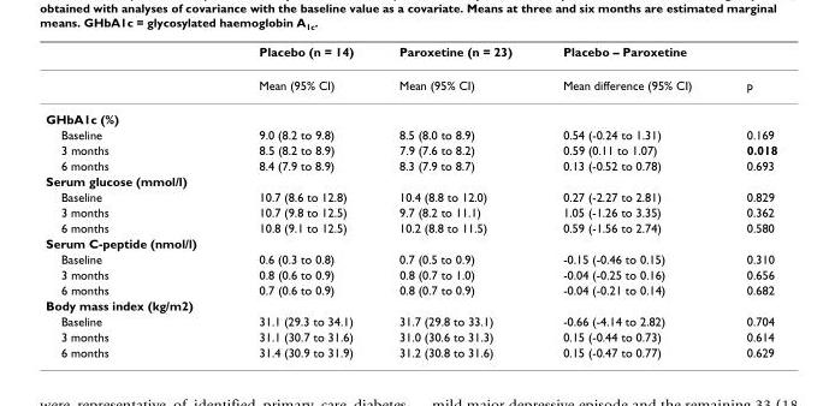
<table><thead><tr><td></td><td>Placebo (n = 14)</td><td>Paroxetine (n = 23)</td><td>Placebo – Paroxetine</td><td></td></tr></thead><tbody><tr><td></td><td>Mean (95% CI)</td><td>Mean (95% CI)</td><td>Mean difference (95% CI)</td><td>p</td></tr><tr><td colspan="5">GHbA1c (%)</td></tr><tr><td>Baseline</td><td>9.0 (8.2 to 9.8)</td><td>8.5 (8.0 to 8.9)</td><td>0.54 (-0.24 to 1.31)</td><td>0.169</td></tr><tr><td>3 months</td><td>8.5 (8.2 to 8.9)</td><td>7.9 (7.6 to 8.2)</td><td>0.59 (0.11 to 1.07)</td><td>0.018</td></tr><tr><td>6 months</td><td>8.4 (7.9 to 8.9)</td><td>8.3 (7.9 to 8.7)</td><td>0.13 (-0.52 to 0.78)</td><td>0.693</td></tr><tr><td colspan="5">Serum glucose (mmol/l)</td></tr><tr><td>Baseline</td><td>10.7 (8.6 to 12.8)</td><td>10.4 (8.8 to 12.0)</td><td>0.27 (-2.27 to 2.81)</td><td>0.829</td></tr><tr><td>3 months</td><td>10.7 (9.8 to 12.5)</td><td>9.7 (8.2 to 11.1)</td><td>1.05 (-1.26 to 3.35)</td><td>0.362</td></tr><tr><td>6 months</td><td>10.8 (9.1 to 12.5)</td><td>10.2 (8.8 to 11.5)</td><td>0.59 (-1.56 to 2.74)</td><td>0.580</td></tr><tr><td colspan="5">Serum C-peptide (nmol/l)</td></tr><tr><td>Baseline</td><td>0.6 (0.3 to 0.8)</td><td>0.7 (0.5 to 0.9)</td><td>-0.15 (-0.46 to 0.15)</td><td>0.310</td></tr><tr><td>3 months</td><td>0.8 (0.6 to 0.9)</td><td>0.8 (0.7 to 1.0)</td><td>-0.04 (-0.25 to 0.16)</td><td>0.656</td></tr><tr><td>6 months</td><td>0.7 (0.6 to 0.9)</td><td>0.8 (0.7 to 0.9)</td><td>-0.04 (-0.21 to 0.14)</td><td>0.682</td></tr><tr><td colspan="5">Body mass index (kg/m2)</td></tr><tr><td>Baseline</td><td>31.1 (29.3 to 34.1)</td><td>31.7 (29.8 to 33.1)</td><td>-0.66 (-4.14 to 2.82)</td><td>0.704</td></tr><tr><td>3 months</td><td>31.1 (30.7 to 31.6)</td><td>31.0 (30.6 to 31.3)</td><td>0.15 (-0.44 to 0.73)</td><td>0.614</td></tr><tr><td>6 months</td><td>31.4 (30.9 to 31.9)</td><td>31.2 (30.8 to 31.6)</td><td>0.15 (-0.47 to 0.77)</td><td>0.629</td></tr></tbody></table>